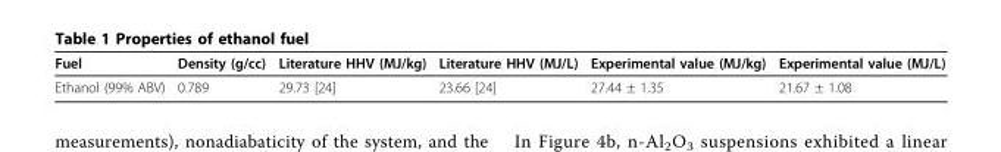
<table><thead><tr><td>Fuel</td><td>Density (g/cc)</td><td>Literature HHV (MJ/kg)</td><td>Literature HHV (MJ/L)</td><td>Experimental value (MJ/kg)</td><td>Experimental value (MJ/L)</td></tr></thead><tbody><tr><td>Ethanol (99% ABV)</td><td>0.789</td><td>29.73 [24]</td><td>23.66 [24]</td><td>27.44 ± 1.35</td><td>21.67 ± 1.08</td></tr></tbody></table>